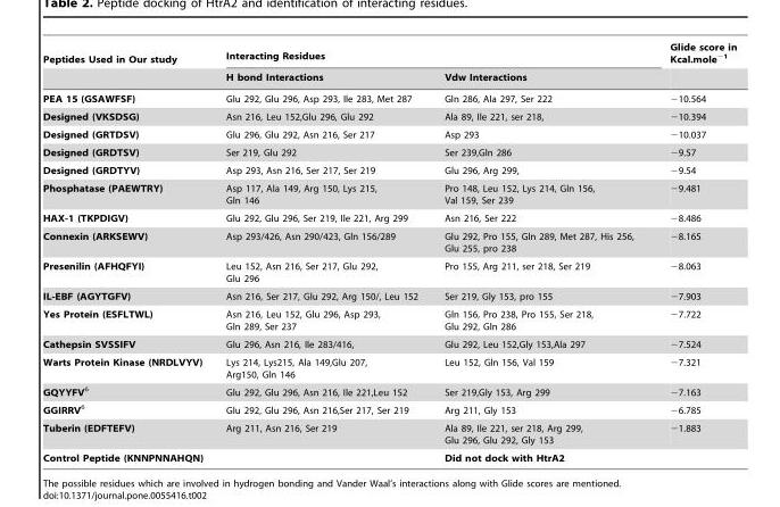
<table><thead><tr><td rowspan="2">Peptides Used in Our study</td><td colspan="2">Interacting Residues</td><td rowspan="2">Glide score in Kcal.mole<sup>−1</sup></td></tr><tr><td>H bond Interactions</td><td>Vdw Interactions</td></tr></thead><tbody><tr><td>PEA 15 (GSAWFSF)</td><td>Glu 292, Glu 296, Asp 293, Ile 283, Met 287</td><td>Gln 286, Ala 297, Ser 222</td><td>−10.564</td></tr><tr><td>Designed (VKSDSG)</td><td>Asn 216, Leu 152,Glu 296, Glu 292</td><td>Ala 89, Ile 221, ser 218,</td><td>−10.394</td></tr><tr><td>Designed (GRTDSV)</td><td>Glu 296, Glu 292, Asn 216, Ser 217</td><td>Asp 293</td><td>−10.037</td></tr><tr><td>Designed (GRDTSV)</td><td>Ser 219, Glu 292</td><td>Ser 239,Gln 286</td><td>−9.57</td></tr><tr><td>Designed (GRDTYV)</td><td>Asp 293, Asn 216, Ser 217, Ser 219</td><td>Glu 296, Arg 299,</td><td>−9.54</td></tr><tr><td>Phosphatase (PAEWTRY)</td><td>Asp 117, Ala 149, Arg 150, Lys 215, Gln 146</td><td>Pro 148, Leu 152, Lys 214, Gln 156, Val 159, Ser 239</td><td>−9.481</td></tr><tr><td>HAX-1 (TKPDIGV)</td><td>Glu 292, Glu 296, Ser 219, Ile 221, Arg 299</td><td>Asn 216, Ser 222</td><td>−8.486</td></tr><tr><td>Connexin (ARKSEWV)</td><td>Asp 293/426, Asn 290/423, Gln 156/289</td><td>Glu 292, Pro 155, Gln 289, Met 287, His 256, Glu 255, pro 238</td><td>−8.165</td></tr><tr><td>Presenilin (AFHQFYI)</td><td>Leu 152, Asn 216, Ser 217, Glu 292, Glu 296</td><td>Pro 155, Arg 211, ser 218, Ser 219</td><td>−8.063</td></tr><tr><td>IL-EBF (AGYTGFV)</td><td>Asn 216, Ser 217, Glu 292, Arg 150/, Leu 152</td><td>Ser 219, Gly 153, pro 155</td><td>−7.903</td></tr><tr><td>Yes Protein (ESFLTWL)</td><td>Asn 216, Leu 152, Glu 296, Asp 293, Gln 289, Ser 237</td><td>Gln 156, Pro 238, Pro 155, Ser 218, Glu 292, Gln 286</td><td>−7.722</td></tr><tr><td>Cathepsin SVSSIFV</td><td>Glu 296, Asn 216, Ile 283/416,</td><td>Glu 292, Leu 152,Gly 153,Ala 297</td><td>−7.524</td></tr><tr><td>Warts Protein Kinase (NRDLVYV)</td><td>Lys 214, Lys215, Ala 149,Glu 207, Arg150, Gln 146</td><td>Leu 152, Gln 156, Val 159</td><td>−7.321</td></tr><tr><td>GQYYFV<sup>6</sup></td><td>Glu 292, Glu 296, Asn 216, Ile 221,Leu 152</td><td>Ser 219,Gly 153, Arg 299</td><td>−7.163</td></tr><tr><td>GGIRRV<sup>6</sup></td><td>Glu 292, Glu 296, Asn 216,Ser 217, Ser 219</td><td>Arg 211, Gly 153</td><td>−6.785</td></tr><tr><td>Tuberin (EDFTEFV)</td><td>Arg 211, Asn 216, Ser 219</td><td>Ala 89, Ile 221, ser 218, Arg 299, Glu 296, Glu 292, Gly 153</td><td>−1.883</td></tr><tr><td colspan="2">Control Peptide (KNNPNNAHQN)</td><td colspan="2">Did not dock with HtrA2</td></tr></tbody></table>